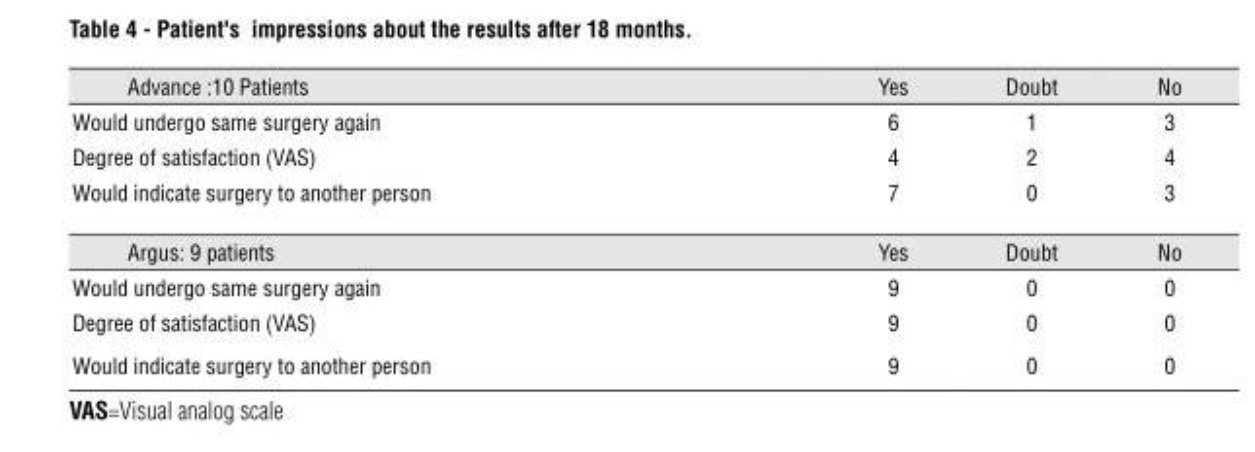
<table><thead><tr><td>Advance :10 Patients</td><td>Yes</td><td>Doubt</td><td>No</td></tr></thead><tbody><tr><td>Would undergo same surgery again</td><td>6</td><td>1</td><td>3</td></tr><tr><td>Degree of satisfaction (VAS)</td><td>4</td><td>2</td><td>4</td></tr><tr><td>Would indicate surgery to another person</td><td>7</td><td>0</td><td>3</td></tr><tr><td>Argus: 9 patients</td><td>Yes</td><td>Doubt</td><td>No</td></tr><tr><td>Would undergo same surgery again</td><td>9</td><td>0</td><td>0</td></tr><tr><td>Degree of satisfaction (VAS)</td><td>9</td><td>0</td><td>0</td></tr><tr><td>Would indicate surgery to another person</td><td>9</td><td>0</td><td>0</td></tr></tbody></table>